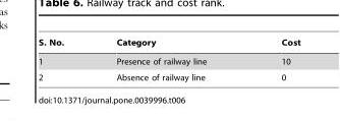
<table><thead><tr><td>S. No.</td><td>Category</td><td>Cost</td></tr></thead><tbody><tr><td>1</td><td>Presence of railway line</td><td>10</td></tr><tr><td>2</td><td>Absence of railway line</td><td>0</td></tr></tbody></table>